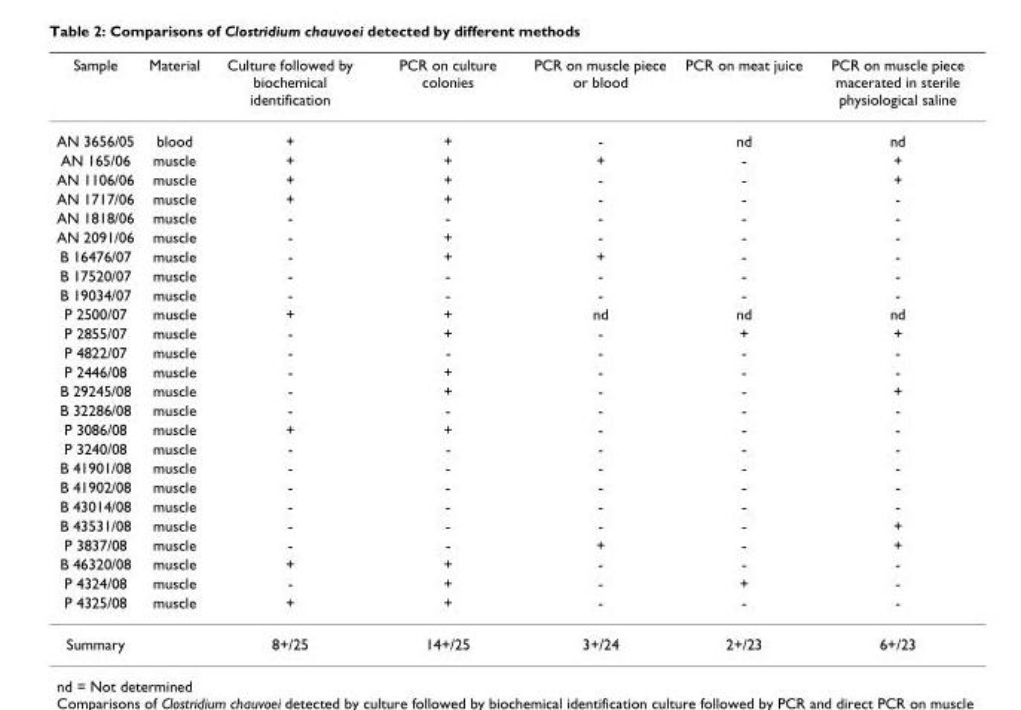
<table><thead><tr><td>Sample</td><td>Material</td><td>Culture followed by biochemical identification</td><td>PCR on culture colonies</td><td>PCR on muscle piece or blood</td><td>PCR on meat juice</td><td>PCR on muscle piece macerated in sterile physiological saline</td></tr></thead><tbody><tr><td>AN 3656/05</td><td>blood</td><td>+</td><td>+</td><td>-</td><td>nd</td><td>nd</td></tr><tr><td>AN 165/06</td><td>muscle</td><td>+</td><td>+</td><td>+</td><td>-</td><td>+</td></tr><tr><td>AN 1106/06</td><td>muscle</td><td>+</td><td>+</td><td>-</td><td>-</td><td>+</td></tr><tr><td>AN 1717/06</td><td>muscle</td><td>+</td><td>+</td><td>-</td><td>-</td><td>-</td></tr><tr><td>AN 1818/06</td><td>muscle</td><td>-</td><td>-</td><td>-</td><td>-</td><td>-</td></tr><tr><td>AN 2091/06</td><td>muscle</td><td>-</td><td>+</td><td>-</td><td>-</td><td>-</td></tr><tr><td>B 16476/07</td><td>muscle</td><td>-</td><td>+</td><td>+</td><td>-</td><td>-</td></tr><tr><td>B 17520/07</td><td>muscle</td><td>-</td><td>-</td><td>-</td><td>-</td><td>-</td></tr><tr><td>B 19034/07</td><td>muscle</td><td>-</td><td>-</td><td>-</td><td>-</td><td>-</td></tr><tr><td>P 2500/07</td><td>muscle</td><td>+</td><td>+</td><td>nd</td><td>nd</td><td>nd</td></tr><tr><td>P 2855/07</td><td>muscle</td><td>-</td><td>+</td><td>-</td><td>+</td><td>+</td></tr><tr><td>P 4822/07</td><td>muscle</td><td>-</td><td>-</td><td>-</td><td>-</td><td>-</td></tr><tr><td>P 2446/08</td><td>muscle</td><td>-</td><td>+</td><td>-</td><td>-</td><td>-</td></tr><tr><td>B 29245/08</td><td>muscle</td><td>-</td><td>+</td><td>-</td><td>-</td><td>+</td></tr><tr><td>B 32286/08</td><td>muscle</td><td>-</td><td>-</td><td>-</td><td>-</td><td>-</td></tr><tr><td>P 3086/08</td><td>muscle</td><td>+</td><td>+</td><td>-</td><td>-</td><td>-</td></tr><tr><td>P 3240/08</td><td>muscle</td><td>-</td><td>-</td><td>-</td><td>-</td><td>-</td></tr><tr><td>B 41901/08</td><td>muscle</td><td>-</td><td>-</td><td>-</td><td>-</td><td>-</td></tr><tr><td>B 41902/08</td><td>muscle</td><td>-</td><td>-</td><td>-</td><td>-</td><td>-</td></tr><tr><td>B 43014/08</td><td>muscle</td><td>-</td><td>-</td><td>-</td><td>-</td><td>-</td></tr><tr><td>B 43531/08</td><td>muscle</td><td>-</td><td>-</td><td>-</td><td>-</td><td>+</td></tr><tr><td>P 3837/08</td><td>muscle</td><td>-</td><td>-</td><td>+</td><td>-</td><td>+</td></tr><tr><td>B 46320/08</td><td>muscle</td><td>+</td><td>+</td><td>-</td><td>-</td><td>-</td></tr><tr><td>P 4324/08</td><td>muscle</td><td>-</td><td>+</td><td>-</td><td>+</td><td>-</td></tr><tr><td>P 4325/08</td><td>muscle</td><td>+</td><td>+</td><td>-</td><td>-</td><td>-</td></tr><tr><td>Summary</td><td></td><td>8+/25</td><td>14+/25</td><td>3+/24</td><td>2+/23</td><td>6+/23</td></tr></tbody></table>